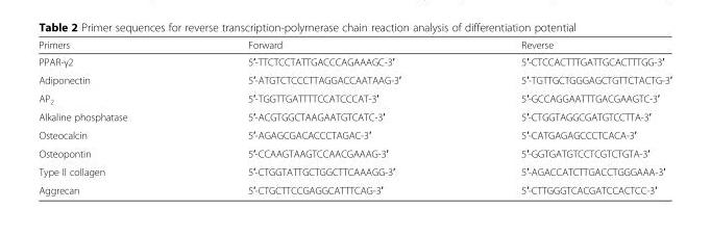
<table><thead><tr><td>Primers</td><td>Forward</td><td>Reverse</td></tr></thead><tbody><tr><td>PPAR-γ2</td><td>5′-TTCTCCTATTGACCCAGAAAGC-3′</td><td>5′-CTCCACTTTGATTGCACTTTGG-3′</td></tr><tr><td>Adiponectin</td><td>5′-ATGTCTCCCTTAGGACCAATAAG-3′</td><td>5′-TGTTGCTGGGAGCTGTTCTACTG-3′</td></tr><tr><td>AP<sub>2</sub></td><td>5′-TGGTTGATTTTCCATCCCAT-3′</td><td>5′-GCCAGGAATTTGACGAAGTC-3′</td></tr><tr><td>Alkaline phosphatase</td><td>5′-ACGTGGCTAAGAATGTCATC-3′</td><td>5′-CTGGTAGGCGATGTCCTTA-3′</td></tr><tr><td>Osteocalcin</td><td>5′-AGAGCGACACCCTAGAC-3′</td><td>5′-CATGAGAGCCCTCACA-3′</td></tr><tr><td>Osteopontin</td><td>5′-CCAAGTAAGTCCAACGAAAG-3′</td><td>5′-GGTGATGTCCTCGTCTGTA-3′</td></tr><tr><td>Type II collagen</td><td>5′-CTGGTATTGCTGGCTTCAAAGG-3′</td><td>5′-AGACCATCTTGACCTGGGAAA-3′</td></tr><tr><td>Aggrecan</td><td>5′-CTGCTTCCGAGGCATTTCAG-3′</td><td>5′-CTTGGGTCACGATCCACTCC-3′</td></tr></tbody></table>